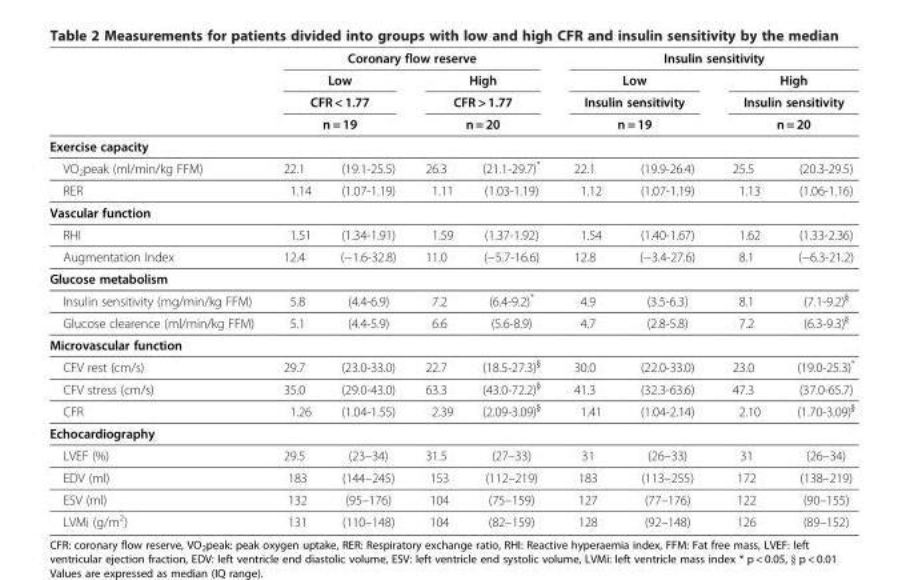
<table><thead><tr><td rowspan="5">Exercise capacity</td><td colspan="4">Coronary flow reserve</td><td colspan="4">Insulin sensitivity</td></tr><tr><td rowspan="3" colspan="2">Low CFR &lt; 1.77 n = 19</td><td rowspan="3" colspan="2">High CFR &gt; 1.77 n = 20</td><td rowspan="3" colspan="2">Low Insulin sensitivity n = 19</td><td rowspan="3" colspan="2">High Insulin sensitivity n = 20</td></tr><tr></tr><tr></tr><tr><td></td><td></td><td></td><td></td><td></td><td></td><td></td><td></td></tr></thead><tbody><tr><td>VO<sub>2</sub>peak (ml/min/kg FFM)</td><td>22.1</td><td>(19.1-25.5)</td><td>26.3</td><td>(21.1-29.7)*</td><td>22.1</td><td>(19.9-26.4)</td><td>25.5</td><td>(20.3-29.5)</td></tr><tr><td>RER</td><td>1.14</td><td>(1.07-1.19)</td><td>1.11</td><td>(1.03-1.19)</td><td>1.12</td><td>(1.07-1.19)</td><td>1.13</td><td>(1.06-1.16)</td></tr><tr><td colspan="9">Vascular function</td></tr><tr><td>RHI</td><td>1.51</td><td>(1.34-1.91)</td><td>1.59</td><td>(1.37-1.92)</td><td>1.54</td><td>(1.40-1.67)</td><td>1.62</td><td>(1.33-2.36)</td></tr><tr><td>Augmentation Index</td><td>12.4</td><td>(−1.6-32.8)</td><td>11.0</td><td>(−5.7-16.6)</td><td>12.8</td><td>(−3.4-27.6)</td><td>8.1</td><td>(−6.3-21.2)</td></tr><tr><td colspan="9">Glucose metabolism</td></tr><tr><td>Insulin sensitivity (mg/min/kg FFM)</td><td>5.8</td><td>(4.4-6.9)</td><td>7.2</td><td>(6.4-9.2)*</td><td>4.9</td><td>(3.5-6.3)</td><td>8.1</td><td>(7.1-9.2)<sup>§</sup></td></tr><tr><td>Glucose clearence (ml/min/kg FFM)</td><td>5.1</td><td>(4.4-5.9)</td><td>6.6</td><td>(5.6-8.9)</td><td>4.7</td><td>(2.8-5.8)</td><td>7.2</td><td>(6.3-9.3)<sup>§</sup></td></tr><tr><td colspan="9">Microvascular function</td></tr><tr><td>CFV rest (cm/s)</td><td>29.7</td><td>(23.0-33.0)</td><td>22.7</td><td>(18.5-27.3)<sup>§</sup></td><td>30.0</td><td>(22.0-33.0)</td><td>23.0</td><td>(19.0-25.3)*</td></tr><tr><td>CFV stress (cm/s)</td><td>35.0</td><td>(29.0-43.0)</td><td>63.3</td><td>(43.0-72.2)<sup>§</sup></td><td>41.3</td><td>(32.3-63.6)</td><td>47.3</td><td>(37.0-65.7)</td></tr><tr><td>CFR</td><td>1.26</td><td>(1.04-1.55)</td><td>2.39</td><td>(2.09-3.09)<sup>§</sup></td><td>1.41</td><td>(1.04-2.14)</td><td>2.10</td><td>(1.70-3.09)<sup>§</sup></td></tr><tr><td colspan="9">Echocardiography</td></tr><tr><td>LVEF (%)</td><td>29.5</td><td>(23–34)</td><td>31.5</td><td>(27–33)</td><td>31</td><td>(26–33)</td><td>31</td><td>(26–34)</td></tr><tr><td>EDV (ml)</td><td>183</td><td>(144–245)</td><td>153</td><td>(112–219)</td><td>183</td><td>(113–255)</td><td>172</td><td>(138–219)</td></tr><tr><td>ESV (ml)</td><td>132</td><td>(95–176)</td><td>104</td><td>(75–159)</td><td>127</td><td>(77–176)</td><td>122</td><td>(90–155)</td></tr><tr><td>LVMi (g/m<sup>2</sup>)</td><td>131</td><td>(110–148)</td><td>104</td><td>(82–159)</td><td>128</td><td>(92–148)</td><td>126</td><td>(89–152)</td></tr></tbody></table>